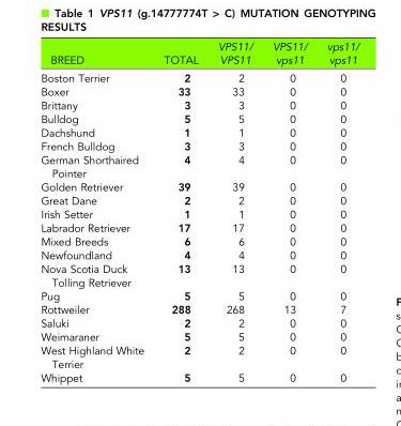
<table><thead><tr><td>BREED</td><td>TOTAL</td><td>VPS11/ VPS11</td><td>VPS11/ vps11</td><td>vps11/ vps11</td></tr></thead><tbody><tr><td>Boston Terrier</td><td>2</td><td>2</td><td>0</td><td>0</td></tr><tr><td>Boxer</td><td>33</td><td>33</td><td>0</td><td>0</td></tr><tr><td>Brittany</td><td>3</td><td>3</td><td>0</td><td>0</td></tr><tr><td>Bulldog</td><td>5</td><td>5</td><td>0</td><td>0</td></tr><tr><td>Dachshund</td><td>1</td><td>1</td><td>0</td><td>0</td></tr><tr><td>French Bulldog</td><td>3</td><td>3</td><td>0</td><td>0</td></tr><tr><td>German Shorthaired Pointer</td><td>4</td><td>4</td><td>0</td><td>0</td></tr><tr><td>Golden Retriever</td><td>39</td><td>39</td><td>0</td><td>0</td></tr><tr><td>Great Dane</td><td>2</td><td>2</td><td>0</td><td>0</td></tr><tr><td>Irish Setter</td><td>1</td><td>1</td><td>0</td><td>0</td></tr><tr><td>Labrador Retriever</td><td>17</td><td>17</td><td>0</td><td>0</td></tr><tr><td>Mixed Breeds</td><td>6</td><td>6</td><td>0</td><td>0</td></tr><tr><td>Newfoundland</td><td>4</td><td>4</td><td>0</td><td>0</td></tr><tr><td>Nova Scotia Duck Tolling Retriever</td><td>13</td><td>13</td><td>0</td><td>0</td></tr><tr><td>Pug</td><td>5</td><td>5</td><td>0</td><td>0</td></tr><tr><td>Rottweiler</td><td>288</td><td>268</td><td>13</td><td>7</td></tr><tr><td>Saluki</td><td>2</td><td>2</td><td>0</td><td>0</td></tr><tr><td>Weimaraner</td><td>5</td><td>5</td><td>0</td><td>0</td></tr><tr><td>West Highland White Terrier</td><td>2</td><td>2</td><td>0</td><td>0</td></tr><tr><td>Whippet</td><td>5</td><td>5</td><td>0</td><td>0</td></tr></tbody></table>